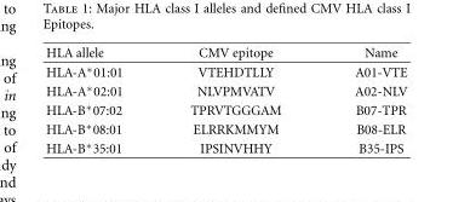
<table><thead><tr><td>HLA allele</td><td>CMV epitope</td><td>Name</td></tr></thead><tbody><tr><td>HLA-A∗01:01</td><td>VTEHDTLLY</td><td>A01-VTE</td></tr><tr><td>HLA-A∗02:01</td><td>NLVPMVATV</td><td>A02-NLV</td></tr><tr><td>HLA-B∗07:02</td><td>TPRVTGGGAM</td><td>B07-TPR</td></tr><tr><td>HLA-B∗08:01</td><td>ELRRKMMYM</td><td>B08-ELR</td></tr><tr><td>HLA-B∗35:01</td><td>IPSINVHHY</td><td>B35-IPS</td></tr></tbody></table>